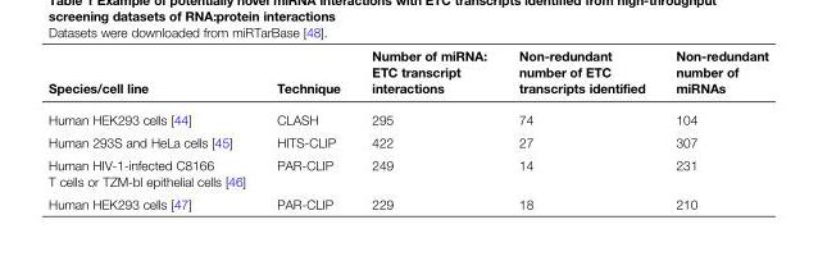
<table><thead><tr><td>Species/cell line</td><td>Technique</td><td>Number of miRNA: ETC transcript interactions</td><td>Non-redundant number of ETC transcripts identified</td><td>Non-redundant number of miRNAs</td></tr></thead><tbody><tr><td>Human HEK293 cells [44]</td><td>CLASH</td><td>295</td><td>74</td><td>104</td></tr><tr><td>Human 293S and HeLa cells [45]</td><td>HITS-CLIP</td><td>422</td><td>27</td><td>307</td></tr><tr><td>Human HIV-1-infected C8166 T cells or TZM-bl epithelial cells [46]</td><td>PAR-CLIP</td><td>249</td><td>14</td><td>231</td></tr><tr><td>Human HEK293 cells [47]</td><td>PAR-CLIP</td><td>229</td><td>18</td><td>210</td></tr></tbody></table>